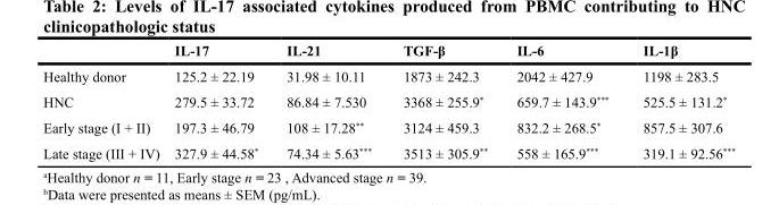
<table><thead><tr><td></td><td>IL-17</td><td>IL-21</td><td>TGF-β</td><td>IL-6</td><td>IL-1β</td></tr></thead><tbody><tr><td>Healthy donor</td><td>125.2 ± 22.19</td><td>31.98 ± 10.11</td><td>1873 ± 242.3</td><td>2042 ± 427.9</td><td>1198 ± 283.5</td></tr><tr><td>HNC</td><td>279.5 ± 33.72</td><td>86.84 ± 7.530</td><td>3368 ± 255.9*</td><td>659.7 ± 143.9***</td><td>525.5 ± 131.2*</td></tr><tr><td>Early stage (I + II)</td><td>197.3 ± 46.79</td><td>108 ± 17.28**</td><td>3124 ± 459.3</td><td>832.2 ± 268.5*</td><td>857.5 ± 307.6</td></tr><tr><td>Late stage (III + IV)</td><td>327.9 ± 44.58*</td><td>74.34 ± 5.63***</td><td>3513 ± 305.9**</td><td>558 ± 165.9***</td><td>319.1 ± 92.56***</td></tr></tbody></table>